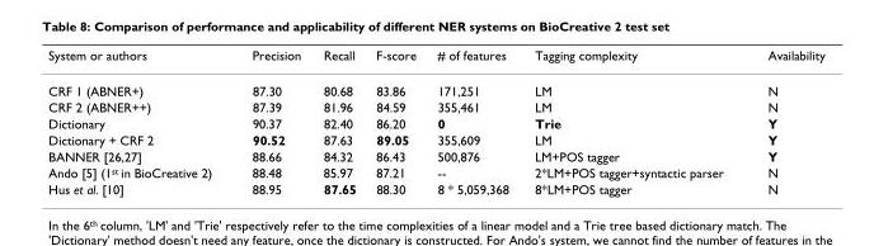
<table><thead><tr><td>System or authors</td><td>Precision</td><td>Recall</td><td>F-score</td><td># of features</td><td>Tagging complexity</td><td>Availability</td></tr></thead><tbody><tr><td>CRF 1 (ABNER+)</td><td>87.30</td><td>80.68</td><td>83.86</td><td>171,251</td><td>LM</td><td>N</td></tr><tr><td>CRF 2 (ABNER++)</td><td>87.39</td><td>81.96</td><td>84.59</td><td>355,461</td><td>LM</td><td>N</td></tr><tr><td>Dictionary</td><td>90.37</td><td>82.40</td><td>86.20</td><td>0</td><td>Trie</td><td>Y</td></tr><tr><td>Dictionary + CRF 2</td><td>90.52</td><td>87.63</td><td>89.05</td><td>355,609</td><td>LM</td><td>Y</td></tr><tr><td>BANNER [26,27]</td><td>88.66</td><td>84.32</td><td>86.43</td><td>500,876</td><td>LM+POS tagger</td><td>Y</td></tr><tr><td>Ando [5] (1<sup>st</sup> in BioCreative 2)</td><td>88.48</td><td>85.97</td><td>87.21</td><td>--</td><td>2*LM+POS tagger+syntactic parser</td><td>N</td></tr><tr><td>Hus et al. [10]</td><td>88.95</td><td>87.65</td><td>88.30</td><td>8 * 5,059,368</td><td>8*LM+POS tagger</td><td>N</td></tr></tbody></table>